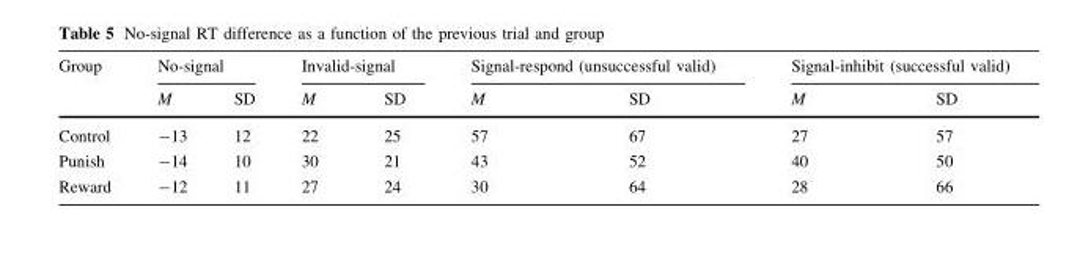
<table><thead><tr><td rowspan="2">Group</td><td colspan="2">No-signal</td><td colspan="2">Invalid-signal</td><td colspan="2">Signal-respond (unsuccessful valid)</td><td colspan="2">Signal-inhibit (successful valid)</td></tr><tr><td>M</td><td>SD</td><td>M</td><td>SD</td><td>M</td><td>SD</td><td>M</td><td>SD</td></tr></thead><tbody><tr><td>Control</td><td>-13</td><td>12</td><td>22</td><td>25</td><td>57</td><td>67</td><td>27</td><td>57</td></tr><tr><td>Punish</td><td>-14</td><td>10</td><td>30</td><td>21</td><td>43</td><td>52</td><td>40</td><td>50</td></tr><tr><td>Reward</td><td>-12</td><td>11</td><td>27</td><td>24</td><td>30</td><td>64</td><td>28</td><td>66</td></tr></tbody></table>